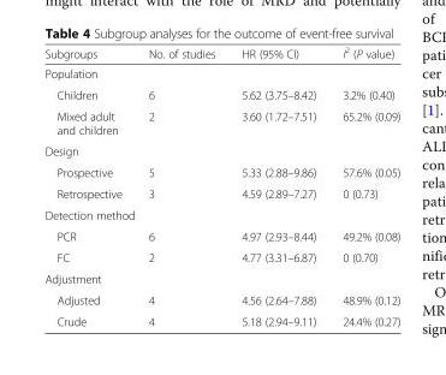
<table><thead><tr><td>Subgroups</td><td>No. of studies</td><td>HR (95% CI)</td><td>I<sup>2</sup> (P value)</td></tr></thead><tbody><tr><td colspan="4">Population</td></tr><tr><td>Children</td><td>6</td><td>5.62 (3.75–8.42)</td><td>3.2% (0.40)</td></tr><tr><td>Mixed adult and children</td><td>2</td><td>3.60 (1.72–7.51)</td><td>65.2% (0.09)</td></tr><tr><td colspan="4">Design</td></tr><tr><td>Prospective</td><td>5</td><td>5.33 (2.88–9.86)</td><td>57.6% (0.05)</td></tr><tr><td>Retrospective</td><td>3</td><td>4.59 (2.89–7.27)</td><td>0 (0.73)</td></tr><tr><td colspan="4">Detection method</td></tr><tr><td>PCR</td><td>6</td><td>4.97 (2.93–8.44)</td><td>49.2% (0.08)</td></tr><tr><td>FC</td><td>2</td><td>4.77 (3.31–6.87)</td><td>0 (0.70)</td></tr><tr><td colspan="4">Adjustment</td></tr><tr><td>Adjusted</td><td>4</td><td>4.56 (2.64–7.88)</td><td>48.9% (0.12)</td></tr><tr><td>Crude</td><td>4</td><td>5.18 (2.94–9.11)</td><td>24.4% (0.27)</td></tr></tbody></table>